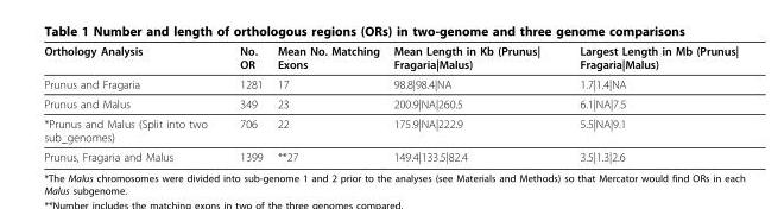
<table><thead><tr><td>Orthology Analysis</td><td>No. OR</td><td>Mean No. Matching Exons</td><td>Mean Length in Kb (Prunus| Fragaria|Malus)</td><td>Largest Length in Mb (Prunus| Fragaria|Malus)</td></tr></thead><tbody><tr><td>Prunus and Fragaria</td><td>1281</td><td>17</td><td>98.8|98.4|NA</td><td>1.7|1.4|NA</td></tr><tr><td>Prunus and Malus</td><td>349</td><td>23</td><td>200.9|NA|260.5</td><td>6.1|NA|7.5</td></tr><tr><td>*Prunus and Malus (Split into two sub_genomes)</td><td>706</td><td>22</td><td>175.9|NA|222.9</td><td>5.5|NA|9.1</td></tr><tr><td>Prunus, Fragaria and Malus</td><td>1399</td><td>**27</td><td>149.4|133.5|82.4</td><td>3.5|1.3|2.6</td></tr></tbody></table>